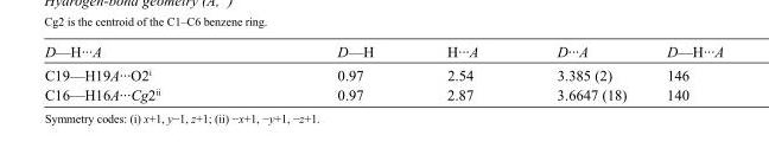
<table><tbody><tr><td>D—H···A</td><td>D—H</td><td>H···A</td><td>D···A</td><td>D—H···A</td></tr><tr><td>C19—H19A···O2<sup>i</sup></td><td>0.97</td><td>2.54</td><td>3.385 (2)</td><td>146</td></tr><tr><td>C16—H16A···Cg2<sup>ii</sup></td><td>0.97</td><td>2.87</td><td>3.6647 (18)</td><td>140</td></tr></tbody></table>